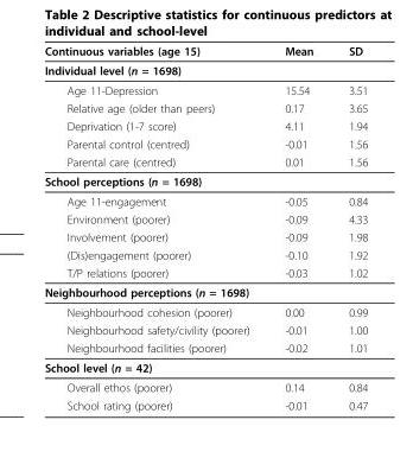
<table><thead><tr><td>Continuous variables (age 15)</td><td>Mean</td><td>SD</td></tr></thead><tbody><tr><td colspan="3">Individual level (n = 1698)</td></tr><tr><td>Age 11-Depression</td><td>15.54</td><td>3.51</td></tr><tr><td>Relative age (older than peers)</td><td>0.17</td><td>3.65</td></tr><tr><td>Deprivation (1-7 score)</td><td>4.11</td><td>1.94</td></tr><tr><td>Parental control (centred)</td><td>-0.01</td><td>1.56</td></tr><tr><td>Parental care (centred)</td><td>0.01</td><td>1.56</td></tr><tr><td colspan="3">School perceptions (n = 1698)</td></tr><tr><td>Age 11-engagement</td><td>-0.05</td><td>0.84</td></tr><tr><td>Environment (poorer)</td><td>-0.09</td><td>4.33</td></tr><tr><td>Involvement (poorer)</td><td>-0.09</td><td>1.98</td></tr><tr><td>(Dis)engagement (poorer)</td><td>-0.10</td><td>1.92</td></tr><tr><td>T/P relations (poorer)</td><td>-0.03</td><td>1.02</td></tr><tr><td colspan="3">Neighbourhood perceptions (n = 1698)</td></tr><tr><td>Neighbourhood cohesion (poorer)</td><td>0.00</td><td>0.99</td></tr><tr><td>Neighbourhood safety/civility (poorer)</td><td>-0.01</td><td>1.00</td></tr><tr><td>Neighbourhood facilities (poorer)</td><td>-0.02</td><td>1.01</td></tr><tr><td colspan="3">School level (n = 42)</td></tr><tr><td>Overall ethos (poorer)</td><td>0.14</td><td>0.84</td></tr><tr><td>School rating (poorer)</td><td>-0.01</td><td>0.47</td></tr></tbody></table>